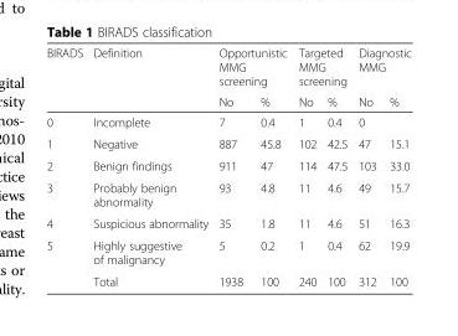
<table><thead><tr><td rowspan="2">BIRADS</td><td rowspan="2">Definition</td><td colspan="2">Opportunistic MMG screening</td><td colspan="2">Targeted MMG screening</td><td colspan="2">Diagnostic MMG</td></tr><tr><td>No</td><td>%</td><td>No</td><td>%</td><td>No</td><td>%</td></tr></thead><tbody><tr><td>0</td><td>Incomplete</td><td>7</td><td>0.4</td><td>1</td><td>0.4</td><td>0</td><td></td></tr><tr><td>1</td><td>Negative</td><td>887</td><td>45.8</td><td>102</td><td>42.5</td><td>47</td><td>15.1</td></tr><tr><td>2</td><td>Benign findings</td><td>911</td><td>47</td><td>114</td><td>47.5</td><td>103</td><td>33.0</td></tr><tr><td>3</td><td>Probably benign abnormality</td><td>93</td><td>4.8</td><td>11</td><td>4.6</td><td>49</td><td>15.7</td></tr><tr><td>4</td><td>Suspicious abnormality</td><td>35</td><td>1.8</td><td>11</td><td>4.6</td><td>51</td><td>16.3</td></tr><tr><td rowspan="2">5</td><td>Highly suggestive of malignancy</td><td>5</td><td>0.2</td><td>1</td><td>0.4</td><td>62</td><td>19.9</td></tr><tr><td>Total</td><td>1938</td><td>100</td><td>240</td><td>100</td><td>312</td><td>100</td></tr></tbody></table>